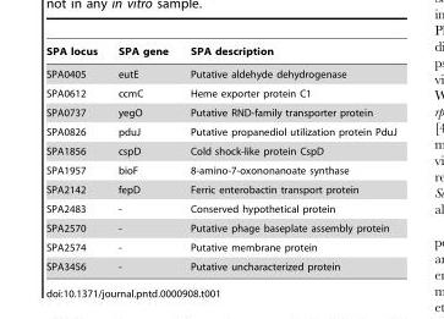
<table><thead><tr><td>SPA locus</td><td>SPA gene</td><td>SPA description</td></tr></thead><tbody><tr><td>SPA0405</td><td>eutE</td><td>Putative aldehyde dehydrogenase</td></tr><tr><td>SPA0612</td><td>ccmC</td><td>Heme exporter protein C1</td></tr><tr><td>SPA0737</td><td>yegO</td><td>Putative RND-family transporter protein</td></tr><tr><td>SPA0826</td><td>pduJ</td><td>Putative propanediol utilization protein PduJ</td></tr><tr><td>SPA1856</td><td>cspD</td><td>Cold shock-like protein CspD</td></tr><tr><td>SPA1957</td><td>bioF</td><td>8-amino-7-oxononanoate synthase</td></tr><tr><td>SPA2142</td><td>fepD</td><td>Ferric enterobactin transport protein</td></tr><tr><td>SPA2483</td><td>-</td><td>Conserved hypothetical protein</td></tr><tr><td>SPA2570</td><td>-</td><td>Putative phage baseplate assembly protein</td></tr><tr><td>SPA2574</td><td>-</td><td>Putative membrane protein</td></tr><tr><td>SPA3456</td><td>-</td><td>Putative uncharacterized protein</td></tr></tbody></table>